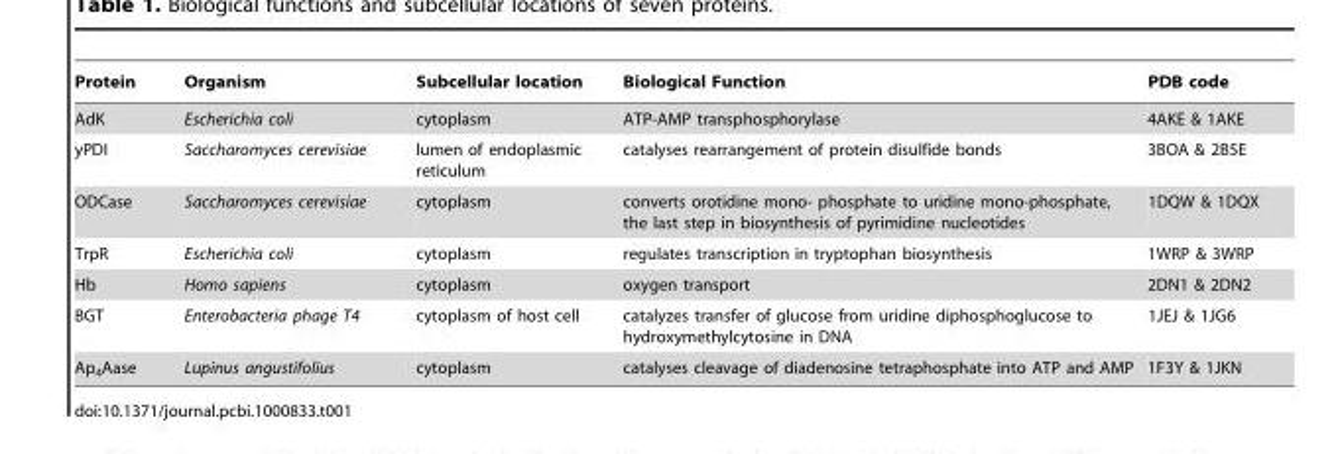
<table><thead><tr><td>Protein</td><td>Organism</td><td>Subcellular location</td><td>Biological Function</td><td>PDB code</td></tr></thead><tbody><tr><td>AdK</td><td>Escherichia coli</td><td>cytoplasm</td><td>ATP-AMP transphosphorylase</td><td>4AKE &amp; 1AKE</td></tr><tr><td>yPDI</td><td>Saccharomyces cerevisiae</td><td>lumen of endoplasmic reticulum</td><td>catalyses rearrangement of protein disulfide bonds</td><td>3BOA &amp; 2B5E</td></tr><tr><td>ODCase</td><td>Saccharomyces cerevisiae</td><td>cytoplasm</td><td>converts orotidine mono- phosphate to uridine mono-phosphate, the last step in biosynthesis of pyrimidine nucleotides</td><td>1DQW &amp; 1DQX</td></tr><tr><td>TrpR</td><td>Escherichia coli</td><td>cytoplasm</td><td>regulates transcription in tryptophan biosynthesis</td><td>1WRP &amp; 3WRP</td></tr><tr><td>Hb</td><td>Homo sapiens</td><td>cytoplasm</td><td>oxygen transport</td><td>2DN1 &amp; 2DN2</td></tr><tr><td>BGT</td><td>Enterobacteria phage T4</td><td>cytoplasm of host cell</td><td>catalyzes transfer of glucose from uridine diphosphoglucose to hydroxymethylcytosine in DNA</td><td>1JEJ &amp; 1JG6</td></tr><tr><td>Ap<sub>4</sub>Aase</td><td>Lupinus angustifolius</td><td>cytoplasm</td><td>catalyses cleavage of diadenosine tetraphosphate into ATP and AMP</td><td>1F3Y &amp; 1JKN</td></tr></tbody></table>